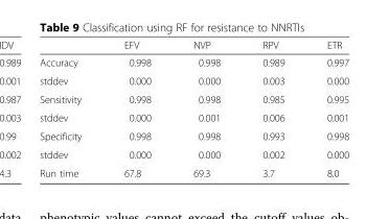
<table><thead><tr><td></td><td>EFV</td><td>NVP</td><td>RPV</td><td>ETR</td></tr></thead><tbody><tr><td>Accuracy</td><td>0.998</td><td>0.998</td><td>0.989</td><td>0.997</td></tr><tr><td>stddev</td><td>0.000</td><td>0.000</td><td>0.003</td><td>0.000</td></tr><tr><td>Sensitivity</td><td>0.998</td><td>0.998</td><td>0.985</td><td>0.995</td></tr><tr><td>stddev</td><td>0.000</td><td>0.001</td><td>0.006</td><td>0.001</td></tr><tr><td>Specificity</td><td>0.998</td><td>0.998</td><td>0.993</td><td>0.998</td></tr><tr><td>stddev</td><td>0.000</td><td>0.000</td><td>0.002</td><td>0.000</td></tr><tr><td>Run time</td><td>67.8</td><td>69.3</td><td>3.7</td><td>8.0</td></tr></tbody></table>